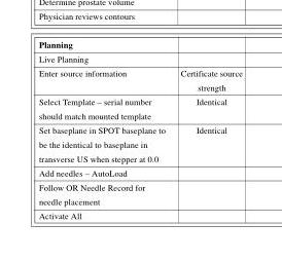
<table><thead><tr><td>Planning</td><td></td></tr></thead><tbody><tr><td colspan="2">Live Planning</td></tr><tr><td>Enter source information</td><td>Certificate source strength</td></tr><tr><td>Select Template – serial number should match mounted template</td><td>Identical</td></tr><tr><td>Set baseplane in SPOT baseplane to be the identical to baseplane in transverse US when stepper at 0.0</td><td>Identical</td></tr><tr><td colspan="2">Add needles – AutoLoad</td></tr><tr><td colspan="2">Follow OR Needle Record for needle placement</td></tr><tr><td>Activate All</td><td></td></tr></tbody></table>